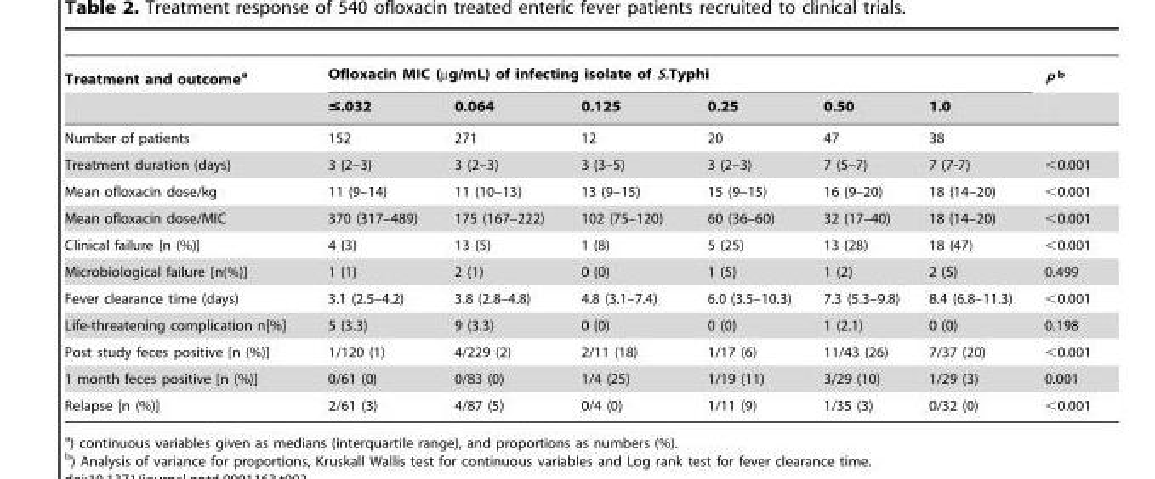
<table><thead><tr><td rowspan="2">Treatment and outcome<sup>a</sup></td><td colspan="6">Ofloxacin MIC (µg/mL) of infecting isolate of S.Typhi</td><td rowspan="2">P b</td></tr><tr><td>≤.032</td><td>0.064</td><td>0.125</td><td>0.25</td><td>0.50</td><td>1.0</td></tr></thead><tbody><tr><td>Number of patients</td><td>152</td><td>271</td><td>12</td><td>20</td><td>47</td><td>38</td><td></td></tr><tr><td>Treatment duration (days)</td><td>3 (2–3)</td><td>3 (2–3)</td><td>3 (3–5)</td><td>3 (2–3)</td><td>7 (5–7)</td><td>7 (7-7)</td><td>&lt;0.001</td></tr><tr><td>Mean ofloxacin dose/kg</td><td>11 (9–14)</td><td>11 (10–13)</td><td>13 (9–15)</td><td>15 (9–15)</td><td>16 (9–20)</td><td>18 (14–20)</td><td>&lt;0.001</td></tr><tr><td>Mean ofloxacin dose/MIC</td><td>370 (317–489)</td><td>175 (167–222)</td><td>102 (75–120)</td><td>60 (36–60)</td><td>32 (17–40)</td><td>18 (14–20)</td><td>&lt;0.001</td></tr><tr><td>Clinical failure [n (%)]</td><td>4 (3)</td><td>13 (5)</td><td>1 (8)</td><td>5 (25)</td><td>13 (28)</td><td>18 (47)</td><td>&lt;0.001</td></tr><tr><td>Microbiological failure [n(%)]</td><td>1 (1)</td><td>2 (1)</td><td>0 (0)</td><td>1 (5)</td><td>1 (2)</td><td>2 (5)</td><td>0.499</td></tr><tr><td>Fever clearance time (days)</td><td>3.1 (2.5–4.2)</td><td>3.8 (2.8–4.8)</td><td>4.8 (3.1–7.4)</td><td>6.0 (3.5–10.3)</td><td>7.3 (5.3–9.8)</td><td>8.4 (6.8–11.3)</td><td>&lt;0.001</td></tr><tr><td>Life-threatening complication n[%]</td><td>5 (3.3)</td><td>9 (3.3)</td><td>0 (0)</td><td>0 (0)</td><td>1 (2.1)</td><td>0 (0)</td><td>0.198</td></tr><tr><td>Post study feces positive [n (%)]</td><td>1/120 (1)</td><td>4/229 (2)</td><td>2/11 (18)</td><td>1/17 (6)</td><td>11/43 (26)</td><td>7/37 (20)</td><td>&lt;0.001</td></tr><tr><td>1 month feces positive [n (%)]</td><td>0/61 (0)</td><td>0/83 (0)</td><td>1/4 (25)</td><td>1/19 (11)</td><td>3/29 (10)</td><td>1/29 (3)</td><td>0.001</td></tr><tr><td>Relapse [n (%)]</td><td>2/61 (3)</td><td>4/87 (5)</td><td>0/4 (0)</td><td>1/11 (9)</td><td>1/35 (3)</td><td>0/32 (0)</td><td>&lt;0.001</td></tr></tbody></table>